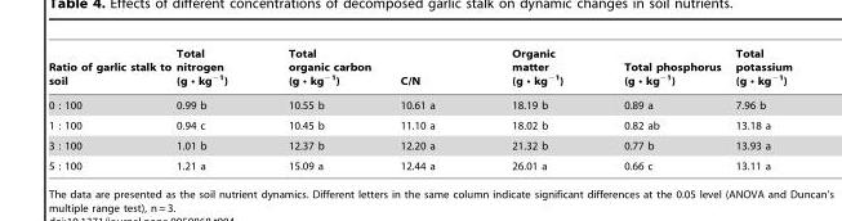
<table><thead><tr><td>Ratio of garlic stalk to soil</td><td>Total nitrogen (g • kg<sup>−1</sup>)</td><td>Total organic carbon (g • kg<sup>−1</sup>)</td><td>C/N</td><td>Organic matter (g • kg<sup>−1</sup>)</td><td>Total phosphorus (g • kg<sup>−1</sup>)</td><td>Total potassium (g • kg<sup>−1</sup>)</td></tr></thead><tbody><tr><td>0 : 100</td><td>0.99 b</td><td>10.55 b</td><td>10.61 a</td><td>18.19 b</td><td>0.89 a</td><td>7.96 b</td></tr><tr><td>1 : 100</td><td>0.94 c</td><td>10.45 b</td><td>11.10 a</td><td>18.02 b</td><td>0.82 ab</td><td>13.18 a</td></tr><tr><td>3 : 100</td><td>1.01 b</td><td>12.37 b</td><td>12.20 a</td><td>21.32 b</td><td>0.77 b</td><td>13.93 a</td></tr><tr><td>5 : 100</td><td>1.21 a</td><td>15.09 a</td><td>12.44 a</td><td>26.01 a</td><td>0.66 c</td><td>13.11 a</td></tr></tbody></table>